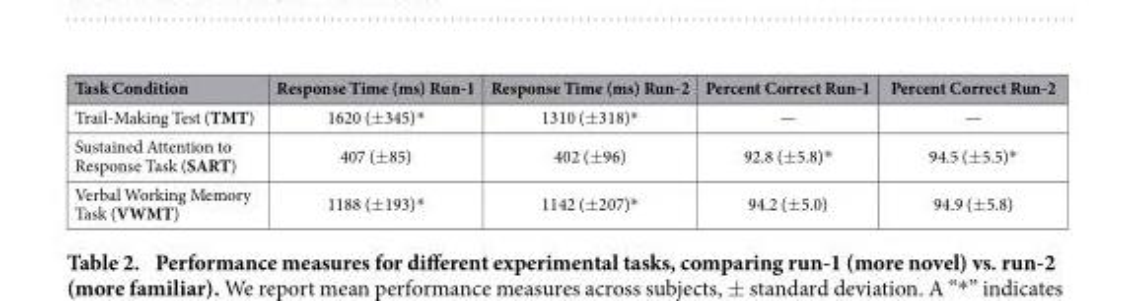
<table><thead><tr><td>Task Condition</td><td>Response Time (ms) Run-1</td><td>Response Time (ms) Run-2</td><td>Percent Correct Run-1</td><td>Percent Correct Run-2</td></tr></thead><tbody><tr><td>Trail-Making Test (TMT)</td><td>1620 (± 345)*</td><td>1310 (± 318)*</td><td>—</td><td>—</td></tr><tr><td>Sustained Attention to Response Task (SART)</td><td>407 (± 85)</td><td>402 (± 96)</td><td>92.8 (± 5.8)*</td><td>94.5 (± 5.5)*</td></tr><tr><td>Verbal Working Memory Task (VWMT)</td><td>1188 (± 193)*</td><td>1142 (± 207)*</td><td>94.2 (± 5.0)</td><td>94.9 (± 5.8)</td></tr></tbody></table>